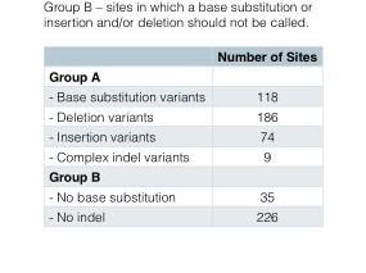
<table><thead><tr><td></td><td>Number of Sites</td></tr></thead><tbody><tr><td colspan="2">Group A</td></tr><tr><td>- Base substitution variants</td><td>118</td></tr><tr><td>- Deletion variants</td><td>186</td></tr><tr><td>- Insertion variants</td><td>74</td></tr><tr><td>- Complex indel variants</td><td>9</td></tr><tr><td colspan="2">Group B</td></tr><tr><td>- No base substitution</td><td>35</td></tr><tr><td>- No indel</td><td>226</td></tr></tbody></table>